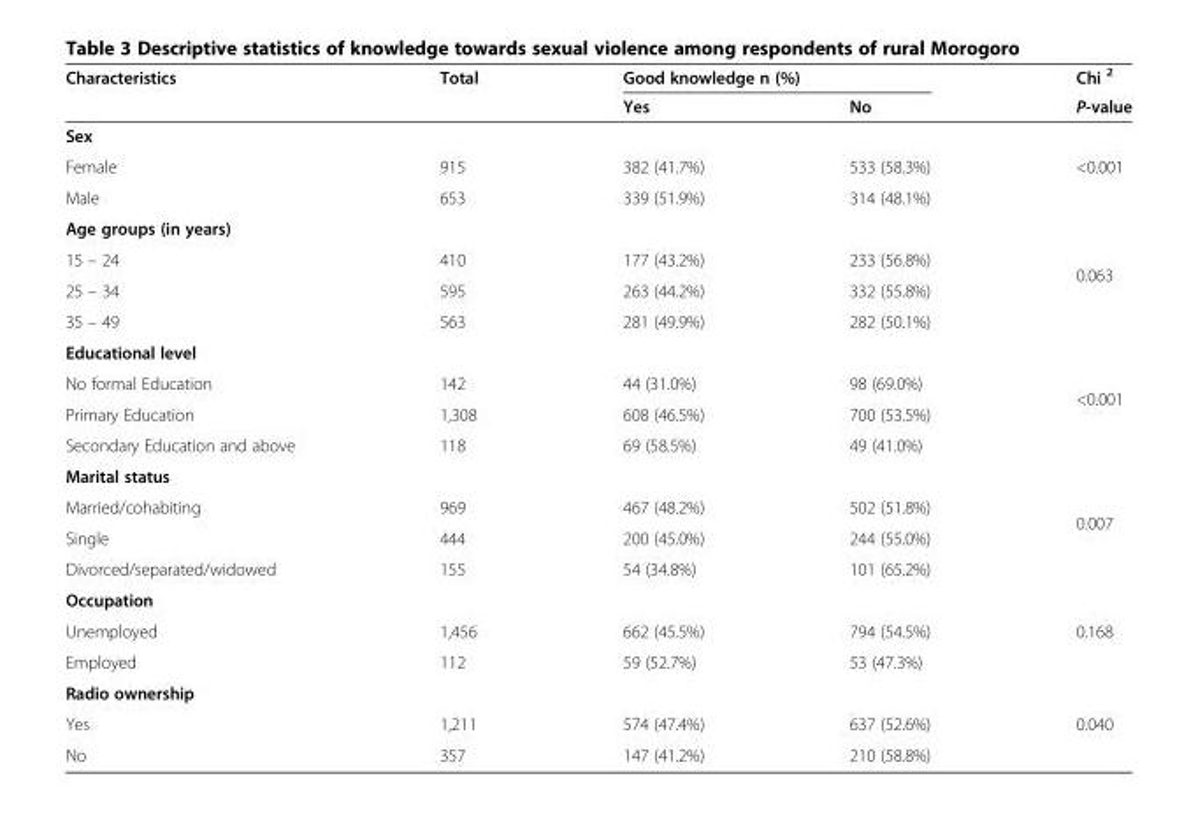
<table><thead><tr><td rowspan="2">Characteristics</td><td rowspan="2">Total</td><td colspan="2">Good knowledge n (%)</td><td rowspan="2">Chi <sup>2</sup> P-value</td></tr><tr><td>Yes</td><td>No</td></tr></thead><tbody><tr><td colspan="4">Sex</td><td rowspan="3">&lt;0.001</td></tr><tr><td>Female</td><td>915</td><td>382 (41.7%)</td><td>533 (58.3%)</td></tr><tr><td>Male</td><td>653</td><td>339 (51.9%)</td><td>314 (48.1%)</td></tr><tr><td colspan="4">Age groups (in years)</td><td rowspan="4">0.063</td></tr><tr><td>15 – 24</td><td>410</td><td>177 (43.2%)</td><td>233 (56.8%)</td></tr><tr><td>25 – 34</td><td>595</td><td>263 (44.2%)</td><td>332 (55.8%)</td></tr><tr><td>35 – 49</td><td>563</td><td>281 (49.9%)</td><td>282 (50.1%)</td></tr><tr><td colspan="4">Educational level</td><td rowspan="4">&lt;0.001</td></tr><tr><td>No formal Education</td><td>142</td><td>44 (31.0%)</td><td>98 (69.0%)</td></tr><tr><td>Primary Education</td><td>1,308</td><td>608 (46.5%)</td><td>700 (53.5%)</td></tr><tr><td>Secondary Education and above</td><td>118</td><td>69 (58.5%)</td><td>49 (41.0%)</td></tr><tr><td colspan="4">Marital status</td><td rowspan="4">0.007</td></tr><tr><td>Married/cohabiting</td><td>969</td><td>467 (48.2%)</td><td>502 (51.8%)</td></tr><tr><td>Single</td><td>444</td><td>200 (45.0%)</td><td>244 (55.0%)</td></tr><tr><td>Divorced/separated/widowed</td><td>155</td><td>54 (34.8%)</td><td>101 (65.2%)</td></tr><tr><td colspan="4">Occupation</td><td rowspan="3">0.168</td></tr><tr><td>Unemployed</td><td>1,456</td><td>662 (45.5%)</td><td>794 (54.5%)</td></tr><tr><td>Employed</td><td>112</td><td>59 (52.7%)</td><td>53 (47.3%)</td></tr><tr><td colspan="4">Radio ownership</td><td rowspan="3">0.040</td></tr><tr><td>Yes</td><td>1,211</td><td>574 (47.4%)</td><td>637 (52.6%)</td></tr><tr><td>No</td><td>357</td><td>147 (41.2%)</td><td>210 (58.8%)</td></tr></tbody></table>